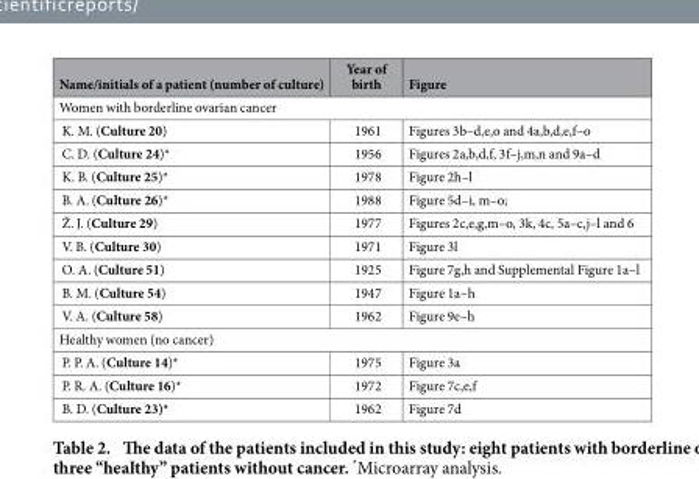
<table><thead><tr><td>Name/initials of a patient (number of culture)</td><td>Year of birth</td><td>Figure</td></tr></thead><tbody><tr><td colspan="3">Women with borderline ovarian cancer</td></tr><tr><td>K. M. (Culture 20)</td><td>1961</td><td>Figures 3b–d,e,o and 4a,b,d,e,f–o</td></tr><tr><td>C. D. (Culture 24)*</td><td>1956</td><td>Figures 2a,b,d,f, 3f–j,m,n and 9a–d</td></tr><tr><td>K. B. (Culture 25)*</td><td>1978</td><td>Figure 2h–l</td></tr><tr><td>B. A. (Culture 26)*</td><td>1988</td><td>Figure 5d–i, m–o;</td></tr><tr><td>Ž. J. (Culture 29)</td><td>1977</td><td>Figures 2c,e,g,m–o, 3k, 4c, 5a–c,j–l and 6</td></tr><tr><td>V. B. (Culture 30)</td><td>1971</td><td>Figure 3l</td></tr><tr><td>O. A. (Culture 51)</td><td>1925</td><td>Figure 7g,h and Supplemental Figure 1a–l</td></tr><tr><td>B. M. (Culture 54)</td><td>1947</td><td>Figure 1a–h</td></tr><tr><td>V. A. (Culture 58)</td><td>1962</td><td>Figure 9e–h</td></tr><tr><td colspan="3">Healthy women (no cancer)</td></tr><tr><td>P. P. A. (Culture 14)*</td><td>1975</td><td>Figure 3a</td></tr><tr><td>P. R. A. (Culture 16)*</td><td>1972</td><td>Figure 7c,e,f</td></tr><tr><td>B. D. (Culture 23)*</td><td>1962</td><td>Figure 7d</td></tr></tbody></table>